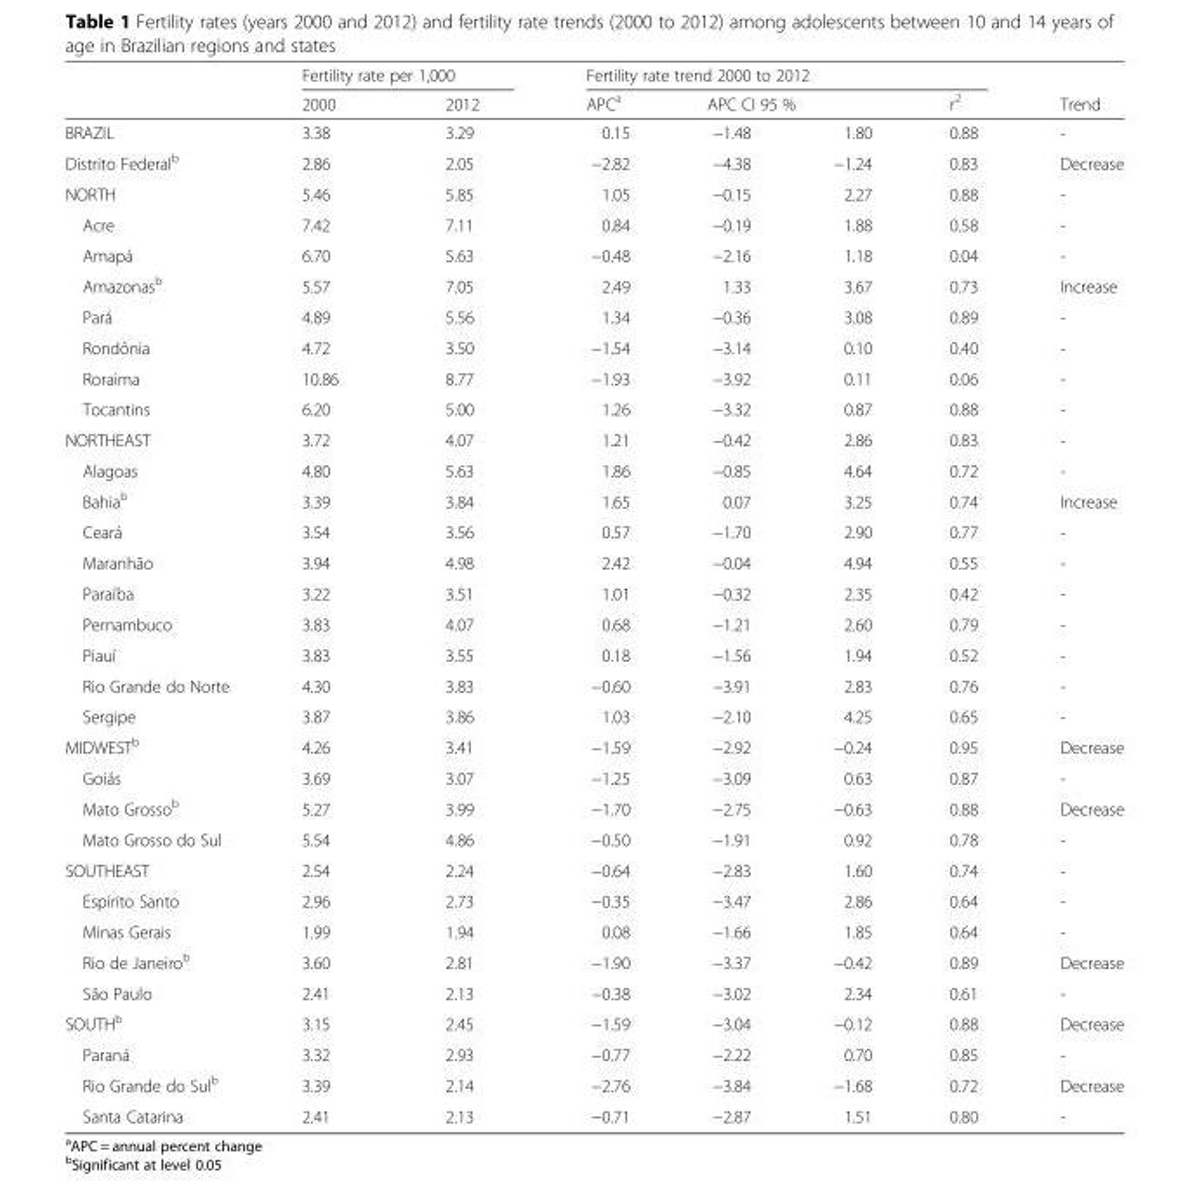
<table><thead><tr><td rowspan="3">BRAZIL</td><td colspan="2">Fertility rate per 1,000</td><td colspan="4">Fertility rate trend 2000 to 2012</td><td rowspan="3">Trend -</td></tr><tr><td rowspan="2">2000 3.38</td><td rowspan="2">2012 3.29</td><td rowspan="2">APC<sup>a</sup> 0.15</td><td colspan="2">APC CI 95 %</td><td rowspan="2">r<sup>2</sup> 0.88</td></tr><tr><td>−1.48</td><td>1.80</td></tr></thead><tbody><tr><td>Distrito Federal<sup>b</sup></td><td>2.86</td><td>2.05</td><td>−2.82</td><td>−4.38</td><td>−1.24</td><td>0.83</td><td>Decrease</td></tr><tr><td>NORTH</td><td>5.46</td><td>5.85</td><td>1.05</td><td>−0.15</td><td>2.27</td><td>0.88</td><td>-</td></tr><tr><td>Acre</td><td>7.42</td><td>7.11</td><td>0.84</td><td>−0.19</td><td>1.88</td><td>0.58</td><td>-</td></tr><tr><td>Amapá</td><td>6.70</td><td>5.63</td><td>−0.48</td><td>−2.16</td><td>1.18</td><td>0.04</td><td>-</td></tr><tr><td>Amazonas<sup>b</sup></td><td>5.57</td><td>7.05</td><td>2.49</td><td>1.33</td><td>3.67</td><td>0.73</td><td>Increase</td></tr><tr><td>Pará</td><td>4.89</td><td>5.56</td><td>1.34</td><td>−0.36</td><td>3.08</td><td>0.89</td><td>-</td></tr><tr><td>Rondônia</td><td>4.72</td><td>3.50</td><td>−1.54</td><td>−3.14</td><td>0.10</td><td>0.40</td><td>-</td></tr><tr><td>Roraima</td><td>10.86</td><td>8.77</td><td>−1.93</td><td>−3.92</td><td>0.11</td><td>0.06</td><td>-</td></tr><tr><td>Tocantins</td><td>6.20</td><td>5.00</td><td>1.26</td><td>−3.32</td><td>0.87</td><td>0.88</td><td>-</td></tr><tr><td>NORTHEAST</td><td>3.72</td><td>4.07</td><td>1.21</td><td>−0.42</td><td>2.86</td><td>0.83</td><td>-</td></tr><tr><td>Alagoas</td><td>4.80</td><td>5.63</td><td>1.86</td><td>−0.85</td><td>4.64</td><td>0.72</td><td>-</td></tr><tr><td>Bahia<sup>b</sup></td><td>3.39</td><td>3.84</td><td>1.65</td><td>0.07</td><td>3.25</td><td>0.74</td><td>Increase</td></tr><tr><td>Ceará</td><td>3.54</td><td>3.56</td><td>0.57</td><td>−1.70</td><td>2.90</td><td>0.77</td><td>-</td></tr><tr><td>Maranhão</td><td>3.94</td><td>4.98</td><td>2.42</td><td>−0.04</td><td>4.94</td><td>0.55</td><td>-</td></tr><tr><td>Paraíba</td><td>3.22</td><td>3.51</td><td>1.01</td><td>−0.32</td><td>2.35</td><td>0.42</td><td>-</td></tr><tr><td>Pernambuco</td><td>3.83</td><td>4.07</td><td>0.68</td><td>−1.21</td><td>2.60</td><td>0.79</td><td>-</td></tr><tr><td>Piauí</td><td>3.83</td><td>3.55</td><td>0.18</td><td>−1.56</td><td>1.94</td><td>0.52</td><td>-</td></tr><tr><td>Rio Grande do Norte</td><td>4.30</td><td>3.83</td><td>−0.60</td><td>−3.91</td><td>2.83</td><td>0.76</td><td>-</td></tr><tr><td>Sergipe</td><td>3.87</td><td>3.86</td><td>1.03</td><td>−2.10</td><td>4.25</td><td>0.65</td><td>-</td></tr><tr><td>MIDWEST<sup>b</sup></td><td>4.26</td><td>3.41</td><td>−1.59</td><td>−2.92</td><td>−0.24</td><td>0.95</td><td>Decrease</td></tr><tr><td>Goiás</td><td>3.69</td><td>3.07</td><td>−1.25</td><td>−3.09</td><td>0.63</td><td>0.87</td><td>-</td></tr><tr><td>Mato Grosso<sup>b</sup></td><td>5.27</td><td>3.99</td><td>−1.70</td><td>−2.75</td><td>−0.63</td><td>0.88</td><td>Decrease</td></tr><tr><td>Mato Grosso do Sul</td><td>5.54</td><td>4.86</td><td>−0.50</td><td>−1.91</td><td>0.92</td><td>0.78</td><td>-</td></tr><tr><td>SOUTHEAST</td><td>2.54</td><td>2.24</td><td>−0.64</td><td>−2.83</td><td>1.60</td><td>0.74</td><td>-</td></tr><tr><td>Espírito Santo</td><td>2.96</td><td>2.73</td><td>−0.35</td><td>−3.47</td><td>2.86</td><td>0.64</td><td>-</td></tr><tr><td>Minas Gerais</td><td>1.99</td><td>1.94</td><td>0.08</td><td>−1.66</td><td>1.85</td><td>0.64</td><td>-</td></tr><tr><td>Rio de Janeiro<sup>b</sup></td><td>3.60</td><td>2.81</td><td>−1.90</td><td>−3.37</td><td>−0.42</td><td>0.89</td><td>Decrease</td></tr><tr><td>São Paulo</td><td>2.41</td><td>2.13</td><td>−0.38</td><td>−3.02</td><td>2.34</td><td>0.61</td><td>-</td></tr><tr><td>SOUTH<sup>b</sup></td><td>3.15</td><td>2.45</td><td>−1.59</td><td>−3.04</td><td>−0.12</td><td>0.88</td><td>Decrease</td></tr><tr><td>Paraná</td><td>3.32</td><td>2.93</td><td>−0.77</td><td>−2.22</td><td>0.70</td><td>0.85</td><td>-</td></tr><tr><td>Rio Grande do Sul<sup>b</sup></td><td>3.39</td><td>2.14</td><td>−2.76</td><td>−3.84</td><td>−1.68</td><td>0.72</td><td>Decrease</td></tr><tr><td>Santa Catarina</td><td>2.41</td><td>2.13</td><td>−0.71</td><td>−2.87</td><td>1.51</td><td>0.80</td><td>-</td></tr></tbody></table>